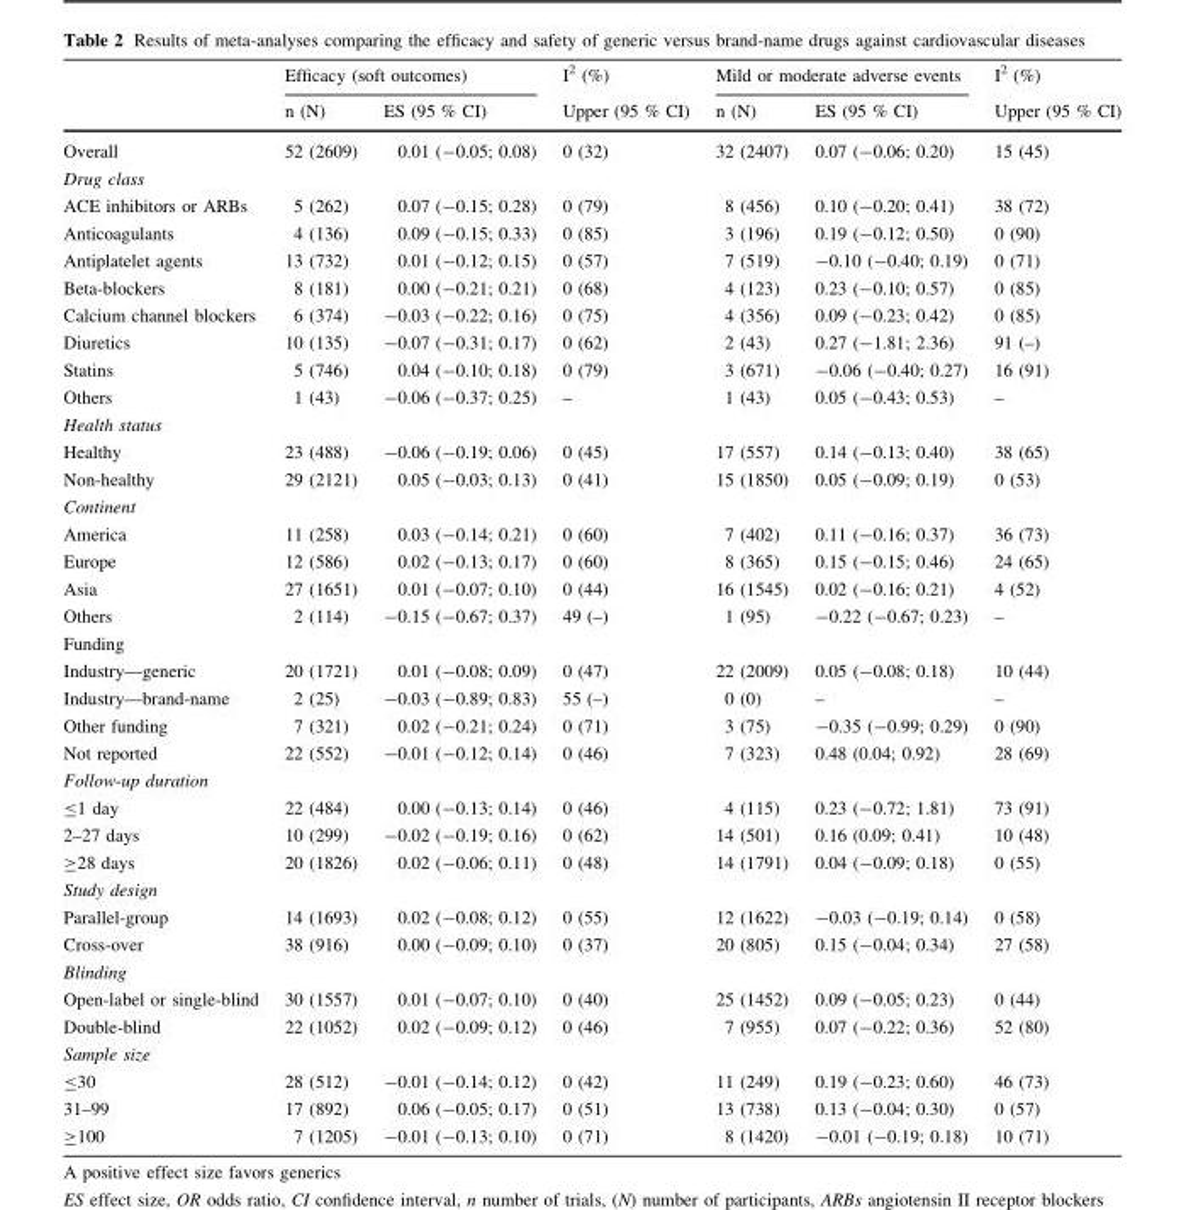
<table><thead><tr><td rowspan="2"></td><td colspan="2">Efficacy (soft outcomes)</td><td rowspan="2">I<sup>2</sup> (%) Upper (95 % CI)</td><td colspan="2">Mild or moderate adverse events</td><td rowspan="2">I<sup>2</sup> (%) Upper (95 % CI)</td></tr><tr><td>n (N)</td><td>ES (95 % CI)</td><td>n (N)</td><td>ES (95 % CI)</td></tr></thead><tbody><tr><td>Overall</td><td>52 (2609)</td><td>0.01 (-0.05; 0.08)</td><td>0 (32)</td><td>32 (2407)</td><td>0.07 (-0.06; 0.20)</td><td>15 (45)</td></tr><tr><td colspan="7">Drug class</td></tr><tr><td>ACE inhibitors or ARBs</td><td>5 (262)</td><td>0.07 (-0.15; 0.28)</td><td>0 (79)</td><td>8 (456)</td><td>0.10 (-0.20; 0.41)</td><td>38 (72)</td></tr><tr><td>Anticoagulants</td><td>4 (136)</td><td>0.09 (-0.15; 0.33)</td><td>0 (85)</td><td>3 (196)</td><td>0.19 (-0.12; 0.50)</td><td>0 (90)</td></tr><tr><td>Antiplatelet agents</td><td>13 (732)</td><td>0.01 (-0.12; 0.15)</td><td>0 (57)</td><td>7 (519)</td><td>-0.10 (-0.40; 0.19)</td><td>0 (71)</td></tr><tr><td>Beta-blockers</td><td>8 (181)</td><td>0.00 (-0.21; 0.21)</td><td>0 (68)</td><td>4 (123)</td><td>0.23 (-0.10; 0.57)</td><td>0 (85)</td></tr><tr><td>Calcium channel blockers</td><td>6 (374)</td><td>-0.03 (-0.22; 0.16)</td><td>0 (75)</td><td>4 (356)</td><td>0.09 (-0.23; 0.42)</td><td>0 (85)</td></tr><tr><td>Diuretics</td><td>10 (135)</td><td>-0.07 (-0.31; 0.17)</td><td>0 (62)</td><td>2 (43)</td><td>0.27 (-1.81; 2.36)</td><td>91 (–)</td></tr><tr><td>Statins</td><td>5 (746)</td><td>0.04 (-0.10; 0.18)</td><td>0 (79)</td><td>3 (671)</td><td>-0.06 (-0.40; 0.27)</td><td>16 (91)</td></tr><tr><td>Others</td><td>1 (43)</td><td>-0.06 (-0.37; 0.25)</td><td>–</td><td>1 (43)</td><td>0.05 (-0.43; 0.53)</td><td>–</td></tr><tr><td colspan="7">Health status</td></tr><tr><td>Healthy</td><td>23 (488)</td><td>-0.06 (-0.19; 0.06)</td><td>0 (45)</td><td>17 (557)</td><td>0.14 (-0.13; 0.40)</td><td>38 (65)</td></tr><tr><td>Non-healthy</td><td>29 (2121)</td><td>0.05 (-0.03; 0.13)</td><td>0 (41)</td><td>15 (1850)</td><td>0.05 (-0.09; 0.19)</td><td>0 (53)</td></tr><tr><td colspan="7">Continent</td></tr><tr><td>America</td><td>11 (258)</td><td>0.03 (-0.14; 0.21)</td><td>0 (60)</td><td>7 (402)</td><td>0.11 (-0.16; 0.37)</td><td>36 (73)</td></tr><tr><td>Europe</td><td>12 (586)</td><td>0.02 (-0.13; 0.17)</td><td>0 (60)</td><td>8 (365)</td><td>0.15 (-0.15; 0.46)</td><td>24 (65)</td></tr><tr><td>Asia</td><td>27 (1651)</td><td>0.01 (-0.07; 0.10)</td><td>0 (44)</td><td>16 (1545)</td><td>0.02 (-0.16; 0.21)</td><td>4 (52)</td></tr><tr><td>Others</td><td>2 (114)</td><td>-0.15 (-0.67; 0.37)</td><td>49 (–)</td><td>1 (95)</td><td>-0.22 (-0.67; 0.23)</td><td>–</td></tr><tr><td colspan="7">Funding</td></tr><tr><td>Industry—generic</td><td>20 (1721)</td><td>0.01 (-0.08; 0.09)</td><td>0 (47)</td><td>22 (2009)</td><td>0.05 (-0.08; 0.18)</td><td>10 (44)</td></tr><tr><td>Industry—brand-name</td><td>2 (25)</td><td>-0.03 (-0.89; 0.83)</td><td>55 (–)</td><td>0 (0)</td><td>–</td><td>–</td></tr><tr><td>Other funding</td><td>7 (321)</td><td>0.02 (-0.21; 0.24)</td><td>0 (71)</td><td>3 (75)</td><td>-0.35 (-0.99; 0.29)</td><td>0 (90)</td></tr><tr><td>Not reported</td><td>22 (552)</td><td>-0.01 (-0.12; 0.14)</td><td>0 (46)</td><td>7 (323)</td><td>0.48 (0.04; 0.92)</td><td>28 (69)</td></tr><tr><td colspan="7">Follow-up duration</td></tr><tr><td>≤1 day</td><td>22 (484)</td><td>0.00 (-0.13; 0.14)</td><td>0 (46)</td><td>4 (115)</td><td>0.23 (-0.72; 1.81)</td><td>73 (91)</td></tr><tr><td>2–27 days</td><td>10 (299)</td><td>-0.02 (-0.19; 0.16)</td><td>0 (62)</td><td>14 (501)</td><td>0.16 (0.09; 0.41)</td><td>10 (48)</td></tr><tr><td>≥28 days</td><td>20 (1826)</td><td>0.02 (-0.06; 0.11)</td><td>0 (48)</td><td>14 (1791)</td><td>0.04 (-0.09; 0.18)</td><td>0 (55)</td></tr><tr><td colspan="7">Study design</td></tr><tr><td>Parallel-group</td><td>14 (1693)</td><td>0.02 (-0.08; 0.12)</td><td>0 (55)</td><td>12 (1622)</td><td>-0.03 (-0.19; 0.14)</td><td>0 (58)</td></tr><tr><td>Cross-over</td><td>38 (916)</td><td>0.00 (-0.09; 0.10)</td><td>0 (37)</td><td>20 (805)</td><td>0.15 (-0.04; 0.34)</td><td>27 (58)</td></tr><tr><td colspan="7">Blinding</td></tr><tr><td>Open-label or single-blind</td><td>30 (1557)</td><td>0.01 (-0.07; 0.10)</td><td>0 (40)</td><td>25 (1452)</td><td>0.09 (-0.05; 0.23)</td><td>0 (44)</td></tr><tr><td>Double-blind</td><td>22 (1052)</td><td>0.02 (-0.09; 0.12)</td><td>0 (46)</td><td>7 (955)</td><td>0.07 (-0.22; 0.36)</td><td>52 (80)</td></tr><tr><td colspan="7">Sample size</td></tr><tr><td>≤30</td><td>28 (512)</td><td>-0.01 (-0.14; 0.12)</td><td>0 (42)</td><td>11 (249)</td><td>0.19 (-0.23; 0.60)</td><td>46 (73)</td></tr><tr><td>31–99</td><td>17 (892)</td><td>0.06 (-0.05; 0.17)</td><td>0 (51)</td><td>13 (738)</td><td>0.13 (-0.04; 0.30)</td><td>0 (57)</td></tr><tr><td>≥100</td><td>7 (1205)</td><td>-0.01 (-0.13; 0.10)</td><td>0 (71)</td><td>8 (1420)</td><td>-0.01 (-0.19; 0.18)</td><td>10 (71)</td></tr></tbody></table>